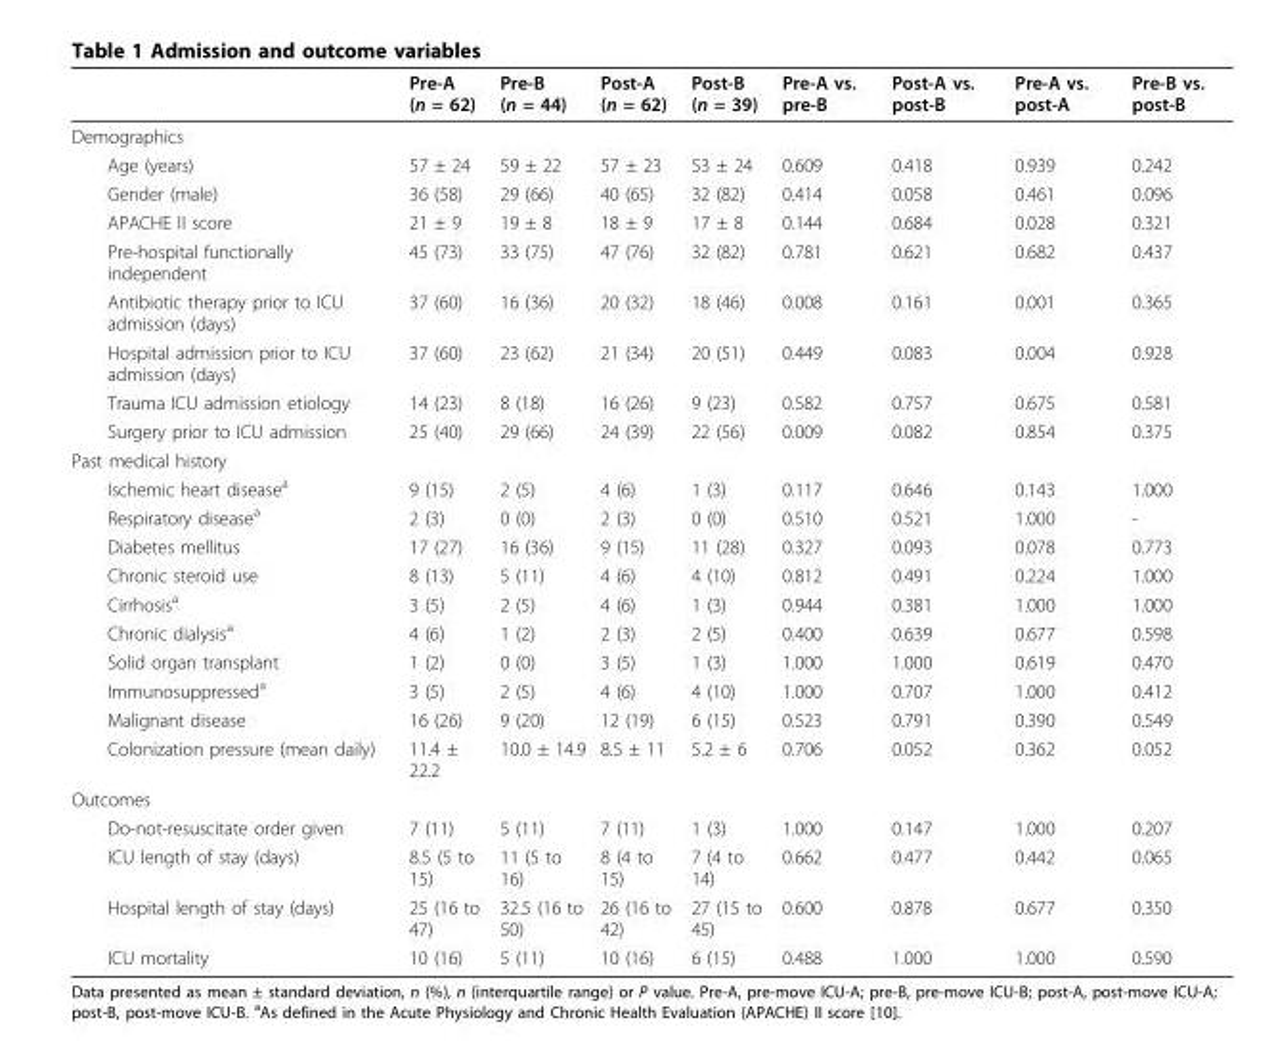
<table><thead><tr><td></td><td>Pre-A (n = 62)</td><td>Pre-B (n = 44)</td><td>Post-A (n = 62)</td><td>Post-B (n = 39)</td><td>Pre-A vs. pre-B</td><td>Post-A vs. post-B</td><td>Pre-A vs. post-A</td><td>Pre-B vs. post-B</td></tr></thead><tbody><tr><td colspan="9">Demographics</td></tr><tr><td>Age (years)</td><td>57 ± 24</td><td>59 ± 22</td><td>57 ± 23</td><td>53 ± 24</td><td>0.609</td><td>0.418</td><td>0.939</td><td>0.242</td></tr><tr><td>Gender (male)</td><td>36 (58)</td><td>29 (66)</td><td>40 (65)</td><td>32 (82)</td><td>0.414</td><td>0.058</td><td>0.461</td><td>0.096</td></tr><tr><td>APACHE II score</td><td>21 ± 9</td><td>19 ± 8</td><td>18 ± 9</td><td>17 ± 8</td><td>0.144</td><td>0.684</td><td>0.028</td><td>0.321</td></tr><tr><td>Pre-hospital functionally independent</td><td>45 (73)</td><td>33 (75)</td><td>47 (76)</td><td>32 (82)</td><td>0.781</td><td>0.621</td><td>0.682</td><td>0.437</td></tr><tr><td>Antibiotic therapy prior to ICU admission (days)</td><td>37 (60)</td><td>16 (36)</td><td>20 (32)</td><td>18 (46)</td><td>0.008</td><td>0.161</td><td>0.001</td><td>0.365</td></tr><tr><td>Hospital admission prior to ICU admission (days)</td><td>37 (60)</td><td>23 (62)</td><td>21 (34)</td><td>20 (51)</td><td>0.449</td><td>0.083</td><td>0.004</td><td>0.928</td></tr><tr><td>Trauma ICU admission etiology</td><td>14 (23)</td><td>8 (18)</td><td>16 (26)</td><td>9 (23)</td><td>0.582</td><td>0.757</td><td>0.675</td><td>0.581</td></tr><tr><td>Surgery prior to ICU admission</td><td>25 (40)</td><td>29 (66)</td><td>24 (39)</td><td>22 (56)</td><td>0.009</td><td>0.082</td><td>0.854</td><td>0.375</td></tr><tr><td colspan="9">Past medical history</td></tr><tr><td>Ischemic heart disease<sup>a</sup></td><td>9 (15)</td><td>2 (5)</td><td>4 (6)</td><td>1 (3)</td><td>0.117</td><td>0.646</td><td>0.143</td><td>1.000</td></tr><tr><td>Respiratory disease<sup>a</sup></td><td>2 (3)</td><td>0 (0)</td><td>2 (3)</td><td>0 (0)</td><td>0.510</td><td>0.521</td><td>1.000</td><td>-</td></tr><tr><td>Diabetes mellitus</td><td>17 (27)</td><td>16 (36)</td><td>9 (15)</td><td>11 (28)</td><td>0.327</td><td>0.093</td><td>0.078</td><td>0.773</td></tr><tr><td>Chronic steroid use</td><td>8 (13)</td><td>5 (11)</td><td>4 (6)</td><td>4 (10)</td><td>0.812</td><td>0.491</td><td>0.224</td><td>1.000</td></tr><tr><td>Cirrhosis<sup>a</sup></td><td>3 (5)</td><td>2 (5)</td><td>4 (6)</td><td>1 (3)</td><td>0.944</td><td>0.381</td><td>1.000</td><td>1.000</td></tr><tr><td>Chronic dialysis<sup>a</sup></td><td>4 (6)</td><td>1 (2)</td><td>2 (3)</td><td>2 (5)</td><td>0.400</td><td>0.639</td><td>0.677</td><td>0.598</td></tr><tr><td>Solid organ transplant</td><td>1 (2)</td><td>0 (0)</td><td>3 (5)</td><td>1 (3)</td><td>1.000</td><td>1.000</td><td>0.619</td><td>0.470</td></tr><tr><td>Immunosuppressed<sup>a</sup></td><td>3 (5)</td><td>2 (5)</td><td>4 (6)</td><td>4 (10)</td><td>1.000</td><td>0.707</td><td>1.000</td><td>0.412</td></tr><tr><td>Malignant disease</td><td>16 (26)</td><td>9 (20)</td><td>12 (19)</td><td>6 (15)</td><td>0.523</td><td>0.791</td><td>0.390</td><td>0.549</td></tr><tr><td>Colonization pressure (mean daily)</td><td>11.4 ± 22.2</td><td>10.0 ± 14.9</td><td>8.5 ± 11</td><td>5.2 ± 6</td><td>0.706</td><td>0.052</td><td>0.362</td><td>0.052</td></tr><tr><td colspan="9">Outcomes</td></tr><tr><td>Do-not-resuscitate order given</td><td>7 (11)</td><td>5 (11)</td><td>7 (11)</td><td>1 (3)</td><td>1.000</td><td>0.147</td><td>1.000</td><td>0.207</td></tr><tr><td>ICU length of stay (days)</td><td>8.5 (5 to 15)</td><td>11 (5 to 16)</td><td>8 (4 to 15)</td><td>7 (4 to 14)</td><td>0.662</td><td>0.477</td><td>0.442</td><td>0.065</td></tr><tr><td>Hospital length of stay (days)</td><td>25 (16 to 47)</td><td>32.5 (16 to 50)</td><td>26 (16 to 42)</td><td>27 (15 to 45)</td><td>0.600</td><td>0.878</td><td>0.677</td><td>0.350</td></tr><tr><td>ICU mortality</td><td>10 (16)</td><td>5 (11)</td><td>10 (16)</td><td>6 (15)</td><td>0.488</td><td>1.000</td><td>1.000</td><td>0.590</td></tr></tbody></table>